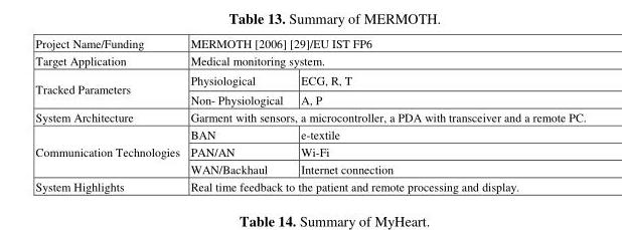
<table><tbody><tr><td>Project Name/Funding</td><td colspan="2">MERMOTH [2006] [29]/EU IST FP6</td></tr><tr><td>Target Application</td><td colspan="2">Medical monitoring system.</td></tr><tr><td rowspan="2">Tracked Parameters</td><td>Physiological</td><td>ECG, R, T</td></tr><tr><td>Non- Physiological</td><td>A, P</td></tr><tr><td>System Architecture</td><td colspan="2">Garment with sensors, a microcontroller, a PDA with transceiver and a remote PC.</td></tr><tr><td rowspan="3">Communication Technologies</td><td>BAN</td><td>e-textile</td></tr><tr><td>PAN/AN</td><td>Wi-Fi</td></tr><tr><td>WAN/Backhaul</td><td>Internet connection</td></tr><tr><td>System Highlights</td><td colspan="2">Real time feedback to the patient and remote processing and display.</td></tr></tbody></table>